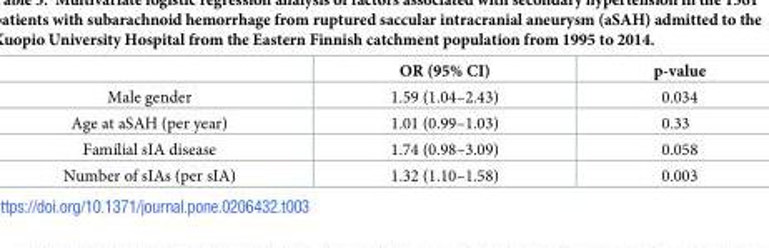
<table><thead><tr><td></td><td>OR (95% CI)</td><td>p-value</td></tr></thead><tbody><tr><td>Male gender</td><td>1.59 (1.04–2.43)</td><td>0.034</td></tr><tr><td>Age at aSAH (per year)</td><td>1.01 (0.99–1.03)</td><td>0.33</td></tr><tr><td>Familial sIA disease</td><td>1.74 (0.98–3.09)</td><td>0.058</td></tr><tr><td>Number of sIAs (per sIA)</td><td>1.32 (1.10–1.58)</td><td>0.003</td></tr></tbody></table>